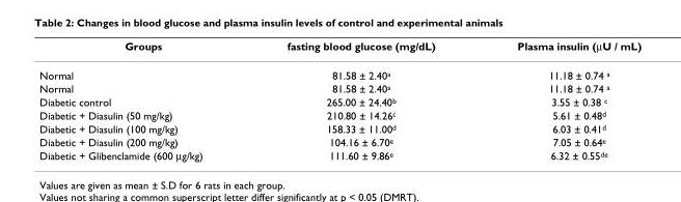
<table><thead><tr><td>Groups</td><td>fasting blood glucose (mg/dL)</td><td>Plasma insulin (µU / mL)</td></tr></thead><tbody><tr><td>Normal</td><td>81.58 ± 2.40<sup>a</sup></td><td>11.18 ± 0.74 <sup>a</sup></td></tr><tr><td>Normal</td><td>81.58 ± 2.40<sup>a</sup></td><td>11.18 ± 0.74 <sup>a</sup></td></tr><tr><td>Diabetic control</td><td>265.00 ± 24.40<sup>b</sup></td><td>3.55 ± 0.38 <sup>c</sup></td></tr><tr><td>Diabetic + Diasulin (50 mg/kg)</td><td>210.80 ± 14.26<sup>c</sup></td><td>5.61 ± 0.48<sup>d</sup></td></tr><tr><td>Diabetic + Diasulin (100 mg/kg)</td><td>158.33 ± 11.00<sup>d</sup></td><td>6.03 ± 0.41<sup>d</sup></td></tr><tr><td>Diabetic + Diasulin (200 mg/kg)</td><td>104.16 ± 6.70<sup>e</sup></td><td>7.05 ± 0.64<sup>e</sup></td></tr><tr><td>Diabetic + Glibenclamide (600 µg/kg)</td><td>111.60 ± 9.86<sup>e</sup></td><td>6.32 ± 0.55<sup>de</sup></td></tr></tbody></table>